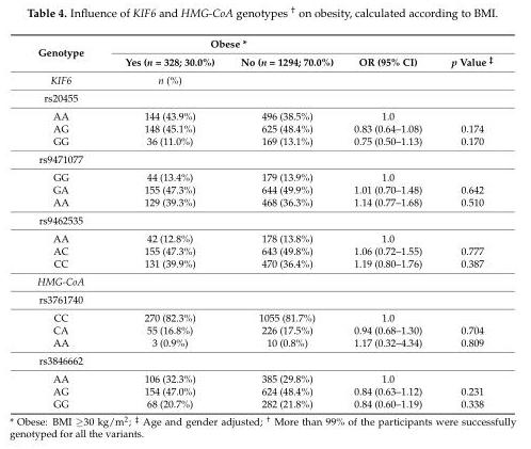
<table><thead><tr><td rowspan="2">Genotype</td><td colspan="2">Obese *</td><td rowspan="2">OR (95% CI)</td><td rowspan="2">p Value <sup>‡</sup></td></tr><tr><td>Yes (n = 328; 30.0%)</td><td>No (n = 1294; 70.0%)</td></tr></thead><tbody><tr><td>KIF6</td><td>n (%)</td><td></td><td colspan="2"></td></tr><tr><td colspan="5">rs20455</td></tr><tr><td>AA</td><td>144 (43.9%)</td><td>496 (38.5%)</td><td>1.0</td><td></td></tr><tr><td>AG</td><td>148 (45.1%)</td><td>625 (48.4%)</td><td>0.83 (0.64–1.08)</td><td>0.174</td></tr><tr><td>GG</td><td>36 (11.0%)</td><td>169 (13.1%)</td><td>0.75 (0.50–1.13)</td><td>0.170</td></tr><tr><td colspan="5">rs9471077</td></tr><tr><td>GG</td><td>44 (13.4%)</td><td>179 (13.9%)</td><td>1.0</td><td></td></tr><tr><td>GA</td><td>155 (47.3%)</td><td>644 (49.9%)</td><td>1.01 (0.70–1.48)</td><td>0.642</td></tr><tr><td>AA</td><td>129 (39.3%)</td><td>468 (36.3%)</td><td>1.14 (0.77–1.68)</td><td>0.510</td></tr><tr><td colspan="5">rs9462535</td></tr><tr><td>AA</td><td>42 (12.8%)</td><td>178 (13.8%)</td><td>1.0</td><td></td></tr><tr><td>AC</td><td>155 (47.3%)</td><td>643 (49.8%)</td><td>1.06 (0.72–1.55)</td><td>0.777</td></tr><tr><td>CC</td><td>131 (39.9%)</td><td>470 (36.4%)</td><td>1.19 (0.80–1.76)</td><td>0.387</td></tr><tr><td colspan="5">HMG-CoA</td></tr><tr><td colspan="5">rs3761740</td></tr><tr><td>CC</td><td>270 (82.3%)</td><td>1055 (81.7%)</td><td>1.0</td><td></td></tr><tr><td>CA</td><td>55 (16.8%)</td><td>226 (17.5%)</td><td>0.94 (0.68–1.30)</td><td>0.704</td></tr><tr><td>AA</td><td>3 (0.9%)</td><td>10 (0.8%)</td><td>1.17 (0.32–4.34)</td><td>0.809</td></tr><tr><td colspan="5">rs3846662</td></tr><tr><td>AA</td><td>106 (32.3%)</td><td>385 (29.8%)</td><td>1.0</td><td></td></tr><tr><td>AG</td><td>154 (47.0%)</td><td>624 (48.4%)</td><td>0.84 (0.63–1.12)</td><td>0.231</td></tr><tr><td>GG</td><td>68 (20.7%)</td><td>282 (21.8%)</td><td>0.84 (0.60–1.19)</td><td>0.338</td></tr></tbody></table>